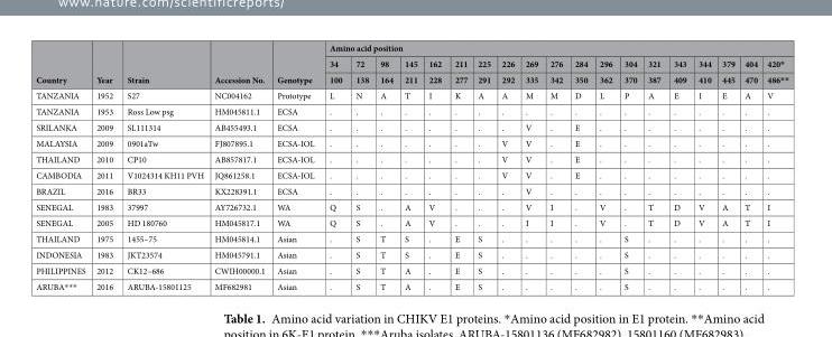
<table><thead><tr><td rowspan="3">Country</td><td rowspan="3">Year</td><td rowspan="3">Strain</td><td rowspan="3">Accession No.</td><td rowspan="3">Genotype</td><td colspan="19">Amino acid position</td></tr><tr><td rowspan="2">34 100</td><td rowspan="2">72 138</td><td rowspan="2">98 164</td><td rowspan="2">145 211</td><td rowspan="2">162 228</td><td rowspan="2">211 277</td><td rowspan="2">225 291</td><td rowspan="2">226 292</td><td rowspan="2">269 335</td><td rowspan="2">276 342</td><td rowspan="2">284 350</td><td rowspan="2">296 362</td><td rowspan="2">304 370</td><td rowspan="2">321 387</td><td rowspan="2">343 409</td><td rowspan="2">344 410</td><td rowspan="2">379 445</td><td rowspan="2">404 470</td><td rowspan="2">420* 486**</td></tr><tr></tr></thead><tbody><tr><td>TANZANIA</td><td>1952</td><td>S27</td><td>NC004162</td><td>Prototype</td><td>L</td><td>N</td><td>A</td><td>T</td><td>I</td><td>K</td><td>A</td><td>A</td><td>M</td><td>M</td><td>D</td><td>L</td><td>P</td><td>A</td><td>E</td><td>I</td><td>E</td><td>A</td><td>V</td></tr><tr><td>TANZANIA</td><td>1953</td><td>Ross Low psg</td><td>HM045811.1</td><td>ECSA</td><td>.</td><td>.</td><td>.</td><td>.</td><td>.</td><td>.</td><td>.</td><td>.</td><td>.</td><td>.</td><td>.</td><td>.</td><td>.</td><td>.</td><td>.</td><td>.</td><td>.</td><td>.</td><td>.</td></tr><tr><td>SRILANKA</td><td>2009</td><td>SL111314</td><td>AB455493.1</td><td>ECSA</td><td>.</td><td>.</td><td>.</td><td>.</td><td>.</td><td>.</td><td>.</td><td>.</td><td>V</td><td>.</td><td>E</td><td>.</td><td>.</td><td>.</td><td>.</td><td>.</td><td>.</td><td>.</td><td>.</td></tr><tr><td>MALAYSIA</td><td>2009</td><td>0901aTw</td><td>FJ807895.1</td><td>ECSA-IOL</td><td>.</td><td>.</td><td>.</td><td>.</td><td>.</td><td>.</td><td>.</td><td>V</td><td>V</td><td>.</td><td>E</td><td>.</td><td>.</td><td>.</td><td>.</td><td>.</td><td>.</td><td>.</td><td>.</td></tr><tr><td>THAILAND</td><td>2010</td><td>CP10</td><td>AB857817.1</td><td>ECSA-IOL</td><td>.</td><td>.</td><td>.</td><td>.</td><td>.</td><td>.</td><td>.</td><td>V</td><td>V</td><td>.</td><td>E</td><td>.</td><td>.</td><td>.</td><td>.</td><td>.</td><td>.</td><td>.</td><td>.</td></tr><tr><td>CAMBODIA</td><td>2011</td><td>V1024314 KH11 PVH</td><td>JQ861258.1</td><td>ECSA-IOL</td><td>.</td><td>.</td><td>.</td><td>.</td><td>.</td><td>.</td><td>.</td><td>V</td><td>V</td><td>.</td><td>E</td><td>.</td><td>.</td><td>.</td><td>.</td><td>.</td><td>.</td><td>.</td><td>.</td></tr><tr><td>BRAZIL</td><td>2016</td><td>BR33</td><td>KX228391.1</td><td>ECSA</td><td>.</td><td>.</td><td>.</td><td>.</td><td>.</td><td>.</td><td>.</td><td>.</td><td>V</td><td>.</td><td>.</td><td>.</td><td>.</td><td>.</td><td>.</td><td>.</td><td>.</td><td>.</td><td>.</td></tr><tr><td>SENEGAL</td><td>1983</td><td>37997</td><td>AY726732.1</td><td>WA</td><td>Q</td><td>S</td><td>.</td><td>A</td><td>V</td><td>.</td><td>.</td><td>.</td><td>V</td><td>I</td><td>.</td><td>V</td><td>.</td><td>T</td><td>D</td><td>V</td><td>A</td><td>T</td><td>I</td></tr><tr><td>SENEGAL</td><td>2005</td><td>HD 180760</td><td>HM045817.1</td><td>WA</td><td>Q</td><td>S</td><td>.</td><td>A</td><td>V</td><td>.</td><td>.</td><td>.</td><td>I</td><td>I</td><td>.</td><td>V</td><td>.</td><td>T</td><td>D</td><td>V</td><td>A</td><td>T</td><td>I</td></tr><tr><td>THAILAND</td><td>1975</td><td>1455–75</td><td>HM045814.1</td><td>Asian</td><td>.</td><td>S</td><td>T</td><td>S</td><td>.</td><td>E</td><td>S</td><td>.</td><td>.</td><td>.</td><td>.</td><td>.</td><td>S</td><td>.</td><td>.</td><td>.</td><td>.</td><td>.</td><td>.</td></tr><tr><td>INDONESIA</td><td>1983</td><td>JKT23574</td><td>HM045791.1</td><td>Asian</td><td>.</td><td>S</td><td>T</td><td>S</td><td>.</td><td>E</td><td>S</td><td>.</td><td>.</td><td>.</td><td>.</td><td>.</td><td>S</td><td>.</td><td>.</td><td>.</td><td>.</td><td>.</td><td>.</td></tr><tr><td>PHILIPPINES</td><td>2012</td><td>CK12–686</td><td>CWIH00000.1</td><td>Asian</td><td>.</td><td>S</td><td>T</td><td>A</td><td>.</td><td>E</td><td>S</td><td>.</td><td>.</td><td>.</td><td>.</td><td>.</td><td>S</td><td>.</td><td>.</td><td>.</td><td>.</td><td>.</td><td>.</td></tr><tr><td>ARUBA***</td><td>2016</td><td>ARUBA-15801125</td><td>MF682981</td><td>Asian</td><td>.</td><td>S</td><td>T</td><td>A</td><td>.</td><td>E</td><td>S</td><td>.</td><td>.</td><td>.</td><td>.</td><td>.</td><td>S</td><td>.</td><td>.</td><td>.</td><td>.</td><td>.</td><td>.</td></tr></tbody></table>